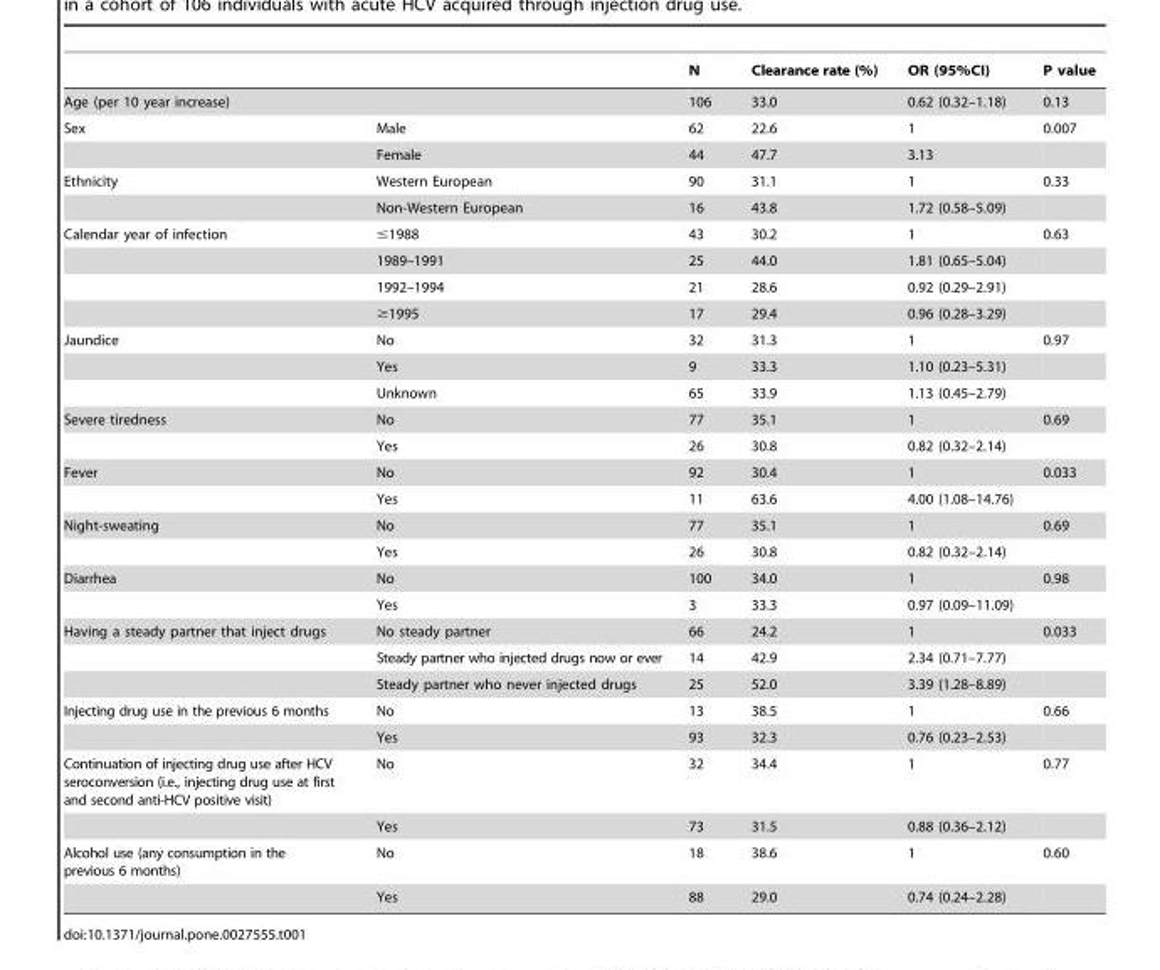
<table><thead><tr><td></td><td></td><td>N</td><td>Clearance rate (%)</td><td>OR (95%CI)</td><td>P value</td></tr></thead><tbody><tr><td>Age (per 10 year increase)</td><td></td><td>106</td><td>33.0</td><td>0.62 (0.32–1.18)</td><td>0.13</td></tr><tr><td rowspan="2">Sex</td><td>Male</td><td>62</td><td>22.6</td><td>1</td><td>0.007</td></tr><tr><td>Female</td><td>44</td><td>47.7</td><td>3.13</td><td></td></tr><tr><td rowspan="2">Ethnicity</td><td>Western European</td><td>90</td><td>31.1</td><td>1</td><td>0.33</td></tr><tr><td>Non-Western European</td><td>16</td><td>43.8</td><td>1.72 (0.58–5.09)</td><td></td></tr><tr><td rowspan="4">Calendar year of infection</td><td>≤1988</td><td>43</td><td>30.2</td><td>1</td><td>0.63</td></tr><tr><td>1989–1991</td><td>25</td><td>44.0</td><td>1.81 (0.65–5.04)</td><td></td></tr><tr><td>1992–1994</td><td>21</td><td>28.6</td><td>0.92 (0.29–2.91)</td><td></td></tr><tr><td>≥1995</td><td>17</td><td>29.4</td><td>0.96 (0.28–3.29)</td><td></td></tr><tr><td rowspan="3">Jaundice</td><td>No</td><td>32</td><td>31.3</td><td>1</td><td>0.97</td></tr><tr><td>Yes</td><td>9</td><td>33.3</td><td>1.10 (0.23–5.31)</td><td></td></tr><tr><td>Unknown</td><td>65</td><td>33.9</td><td>1.13 (0.45–2.79)</td><td></td></tr><tr><td rowspan="2">Severe tiredness</td><td>No</td><td>77</td><td>35.1</td><td>1</td><td>0.69</td></tr><tr><td>Yes</td><td>26</td><td>30.8</td><td>0.82 (0.32–2.14)</td><td></td></tr><tr><td rowspan="2">Fever</td><td>No</td><td>92</td><td>30.4</td><td>1</td><td>0.033</td></tr><tr><td>Yes</td><td>11</td><td>63.6</td><td>4.00 (1.08–14.76)</td><td></td></tr><tr><td rowspan="2">Night-sweating</td><td>No</td><td>77</td><td>35.1</td><td>1</td><td>0.69</td></tr><tr><td>Yes</td><td>26</td><td>30.8</td><td>0.82 (0.32–2.14)</td><td></td></tr><tr><td rowspan="2">Diarrhea</td><td>No</td><td>100</td><td>34.0</td><td>1</td><td>0.98</td></tr><tr><td>Yes</td><td>3</td><td>33.3</td><td>0.97 (0.09–11.09)</td><td></td></tr><tr><td rowspan="3">Having a steady partner that inject drugs</td><td>No steady partner</td><td>66</td><td>24.2</td><td>1</td><td>0.033</td></tr><tr><td>Steady partner who injected drugs now or ever</td><td>14</td><td>42.9</td><td>2.34 (0.71–7.77)</td><td></td></tr><tr><td>Steady partner who never injected drugs</td><td>25</td><td>52.0</td><td>3.39 (1.28–8.89)</td><td></td></tr><tr><td rowspan="2">Injecting drug use in the previous 6 months</td><td>No</td><td>13</td><td>38.5</td><td>1</td><td>0.66</td></tr><tr><td>Yes</td><td>93</td><td>32.3</td><td>0.76 (0.23–2.53)</td><td></td></tr><tr><td rowspan="2">Continuation of injecting drug use after HCV seroconversion (i.e., injecting drug use at first and second anti-HCV positive visit)</td><td>No</td><td>32</td><td>34.4</td><td>1</td><td>0.77</td></tr><tr><td>Yes</td><td>73</td><td>31.5</td><td>0.88 (0.36–2.12)</td><td></td></tr><tr><td rowspan="2">Alcohol use (any consumption in the previous 6 months)</td><td>No</td><td>18</td><td>38.6</td><td>1</td><td>0.60</td></tr><tr><td>Yes</td><td>88</td><td>29.0</td><td>0.74 (0.24–2.28)</td><td></td></tr></tbody></table>